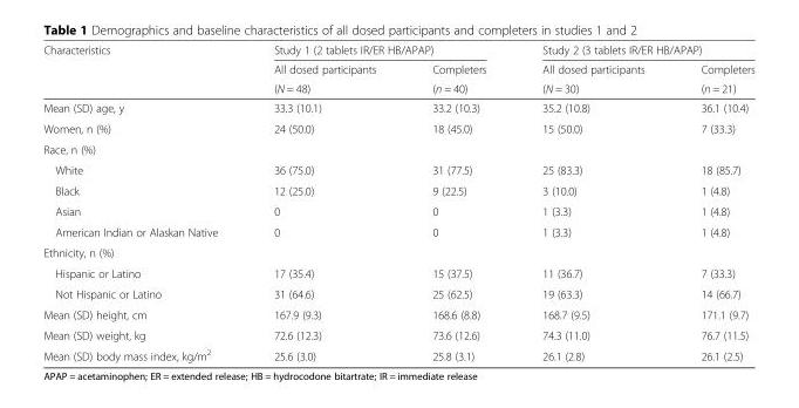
<table><thead><tr><td rowspan="3">Characteristics</td><td colspan="2">Study 1 (2 tablets IR/ER HB/APAP)</td><td colspan="2">Study 2 (3 tablets IR/ER HB/APAP)</td></tr><tr><td rowspan="2">All dosed participants (N = 48)</td><td rowspan="2">Completers (n = 40)</td><td rowspan="2">All dosed participants (N = 30)</td><td rowspan="2">Completers (n = 21)</td></tr><tr></tr></thead><tbody><tr><td>Mean (SD) age, y</td><td>33.3 (10.1)</td><td>33.2 (10.3)</td><td>35.2 (10.8)</td><td>36.1 (10.4)</td></tr><tr><td>Women, n (%)</td><td>24 (50.0)</td><td>18 (45.0)</td><td>15 (50.0)</td><td>7 (33.3)</td></tr><tr><td colspan="5">Race, n (%)</td></tr><tr><td>White</td><td>36 (75.0)</td><td>31 (77.5)</td><td>25 (83.3)</td><td>18 (85.7)</td></tr><tr><td>Black</td><td>12 (25.0)</td><td>9 (22.5)</td><td>3 (10.0)</td><td>1 (4.8)</td></tr><tr><td>Asian</td><td>0</td><td>0</td><td>1 (3.3)</td><td>1 (4.8)</td></tr><tr><td>American Indian or Alaskan Native</td><td>0</td><td>0</td><td>1 (3.3)</td><td>1 (4.8)</td></tr><tr><td colspan="5">Ethnicity, n (%)</td></tr><tr><td>Hispanic or Latino</td><td>17 (35.4)</td><td>15 (37.5)</td><td>11 (36.7)</td><td>7 (33.3)</td></tr><tr><td>Not Hispanic or Latino</td><td>31 (64.6)</td><td>25 (62.5)</td><td>19 (63.3)</td><td>14 (66.7)</td></tr><tr><td>Mean (SD) height, cm</td><td>167.9 (9.3)</td><td>168.6 (8.8)</td><td>168.7 (9.5)</td><td>171.1 (9.7)</td></tr><tr><td>Mean (SD) weight, kg</td><td>72.6 (12.3)</td><td>73.6 (12.6)</td><td>74.3 (11.0)</td><td>76.7 (11.5)</td></tr><tr><td>Mean (SD) body mass index, kg/m<sup>2</sup></td><td>25.6 (3.0)</td><td>25.8 (3.1)</td><td>26.1 (2.8)</td><td>26.1 (2.5)</td></tr></tbody></table>